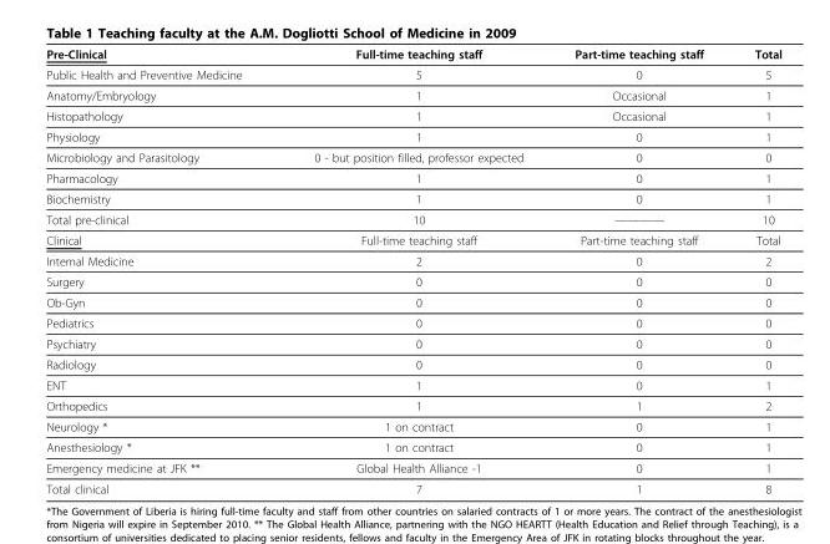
<table><thead><tr><td>Pre-Clinical</td><td>Full-time teaching staff</td><td>Part-time teaching staff</td><td>Total</td></tr></thead><tbody><tr><td>Public Health and Preventive Medicine</td><td>5</td><td>0</td><td>5</td></tr><tr><td>Anatomy/Embryology</td><td>1</td><td>Occasional</td><td>1</td></tr><tr><td>Histopathology</td><td>1</td><td>Occasional</td><td>1</td></tr><tr><td>Physiology</td><td>1</td><td>0</td><td>1</td></tr><tr><td>Microbiology and Parasitology</td><td>0 - but position filled, professor expected</td><td>0</td><td>0</td></tr><tr><td>Pharmacology</td><td>1</td><td>0</td><td>1</td></tr><tr><td>Biochemistry</td><td>1</td><td>0</td><td>1</td></tr><tr><td>Total pre-clinical</td><td>10</td><td>————</td><td>10</td></tr><tr><td>Clinical</td><td>Full-time teaching staff</td><td>Part-time teaching staff</td><td>Total</td></tr><tr><td>Internal Medicine</td><td>2</td><td>0</td><td>2</td></tr><tr><td>Surgery</td><td>0</td><td>0</td><td>0</td></tr><tr><td>Ob-Gyn</td><td>0</td><td>0</td><td>0</td></tr><tr><td>Pediatrics</td><td>0</td><td>0</td><td>0</td></tr><tr><td>Psychiatry</td><td>0</td><td>0</td><td>0</td></tr><tr><td>Radiology</td><td>0</td><td>0</td><td>0</td></tr><tr><td>ENT</td><td>1</td><td>0</td><td>1</td></tr><tr><td>Orthopedics</td><td>1</td><td>1</td><td>2</td></tr><tr><td>Neurology *</td><td>1 on contract</td><td>0</td><td>1</td></tr><tr><td>Anesthesiology *</td><td>1 on contract</td><td>0</td><td>1</td></tr><tr><td>Emergency medicine at JFK **</td><td>Global Health Alliance -1</td><td>0</td><td>1</td></tr><tr><td>Total clinical</td><td>7</td><td>1</td><td>8</td></tr></tbody></table>